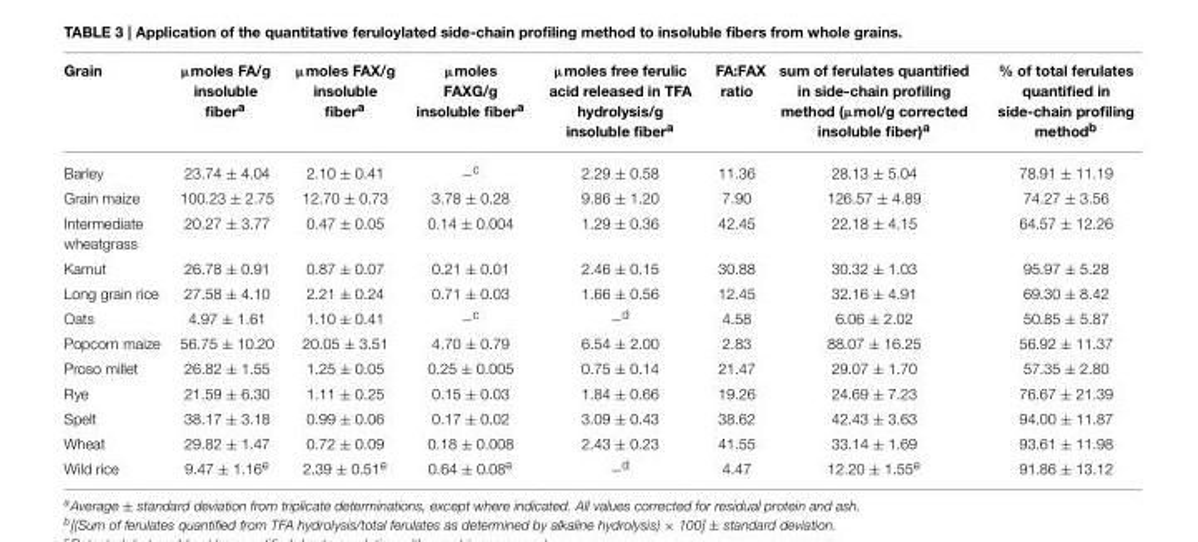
<table><thead><tr><td>Grain</td><td>µmoles FA/g insoluble fiber<sup>a</sup></td><td>µmoles FAX/g insoluble fiber<sup>a</sup></td><td>µmoles FAXG/g insoluble fiber<sup>a</sup></td><td>µmoles free ferulic acid released in TFA hydrolysis/g insoluble fiber<sup>a</sup></td><td>FA:FAX ratio</td><td>sum of ferulates quantified in side-chain profiling method (µmol/g corrected insoluble fiber)<sup>a</sup></td><td>% of total ferulates quantified in side-chain profiling method<sup>b</sup></td></tr></thead><tbody><tr><td>Barley</td><td>23.74 ± 4.04</td><td>2.10 ± 0.41</td><td>−<sup>c</sup></td><td>2.29 ± 0.58</td><td>11.36</td><td>28.13 ± 5.04</td><td>78.91 ± 11.19</td></tr><tr><td>Grain maize</td><td>100.23 ± 2.75</td><td>12.70 ± 0.73</td><td>3.78 ± 0.28</td><td>9.86 ± 1.20</td><td>7.90</td><td>126.57 ± 4.89</td><td>74.27 ± 3.56</td></tr><tr><td>Intermediate wheatgrass</td><td>20.27 ± 3.77</td><td>0.47 ± 0.05</td><td>0.14 ± 0.004</td><td>1.29 ± 0.36</td><td>42.45</td><td>22.18 ± 4.15</td><td>64.57 ± 12.26</td></tr><tr><td>Kamut</td><td>26.78 ± 0.91</td><td>0.87 ± 0.07</td><td>0.21 ± 0.01</td><td>2.46 ± 0.15</td><td>30.88</td><td>30.32 ± 1.03</td><td>95.97 ± 5.28</td></tr><tr><td>Long grain rice</td><td>27.58 ± 4.10</td><td>2.21 ± 0.24</td><td>0.71 ± 0.03</td><td>1.66 ± 0.56</td><td>12.45</td><td>32.16 ± 4.91</td><td>69.30 ± 8.42</td></tr><tr><td>Oats</td><td>4.97 ± 1.61</td><td>1.10 ± 0.41</td><td>−<sup>c</sup></td><td>−<sup>d</sup></td><td>4.58</td><td>6.06 ± 2.02</td><td>50.85 ± 5.87</td></tr><tr><td>Popcorn maize</td><td>56.75 ± 10.20</td><td>20.05 ± 3.51</td><td>4.70 ± 0.79</td><td>6.54 ± 2.00</td><td>2.83</td><td>88.07 ± 16.25</td><td>56.92 ± 11.37</td></tr><tr><td>Proso millet</td><td>26.82 ± 1.55</td><td>1.25 ± 0.05</td><td>0.25 ± 0.005</td><td>0.75 ± 0.14</td><td>21.47</td><td>29.07 ± 1.70</td><td>57.35 ± 2.80</td></tr><tr><td>Rye</td><td>21.59 ± 6.30</td><td>1.11 ± 0.25</td><td>0.15 ± 0.03</td><td>1.84 ± 0.66</td><td>19.26</td><td>24.69 ± 7.23</td><td>76.67 ± 21.39</td></tr><tr><td>Spelt</td><td>38.17 ± 3.18</td><td>0.99 ± 0.06</td><td>0.17 ± 0.02</td><td>3.09 ± 0.43</td><td>38.62</td><td>42.43 ± 3.63</td><td>94.00 ± 11.87</td></tr><tr><td>Wheat</td><td>29.82 ± 1.47</td><td>0.72 ± 0.09</td><td>0.18 ± 0.008</td><td>2.43 ± 0.23</td><td>41.55</td><td>33.14 ± 1.69</td><td>93.61 ± 11.98</td></tr><tr><td>Wild rice</td><td>9.47 ± 1.16<sup>e</sup></td><td>2.39 ± 0.51<sup>e</sup></td><td>0.64 ± 0.08<sup>e</sup></td><td>−<sup>d</sup></td><td>4.47</td><td>12.20 ± 1.55<sup>e</sup></td><td>91.86 ± 13.12</td></tr></tbody></table>